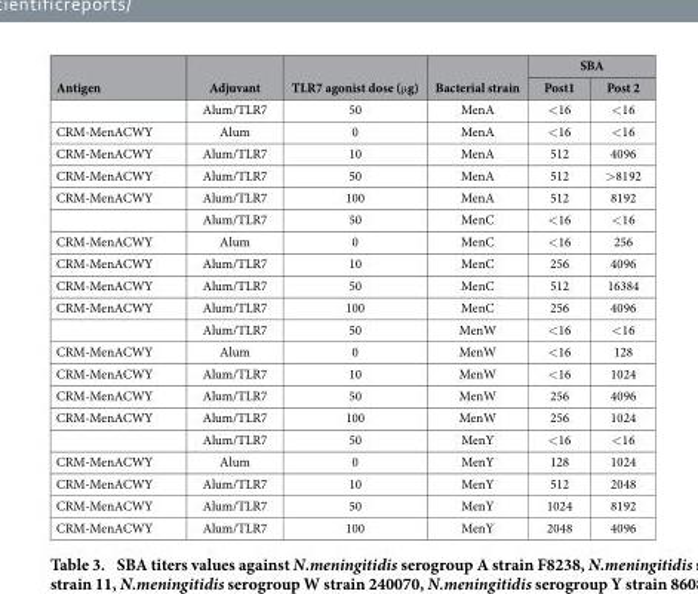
<table><thead><tr><td rowspan="2">Antigen</td><td rowspan="2">Adjuvant</td><td rowspan="2">TLR7 agonist dose (μg)</td><td rowspan="2">Bacterial strain</td><td colspan="2">SBA</td></tr><tr><td>Post1</td><td>Post 2</td></tr></thead><tbody><tr><td></td><td>Alum/TLR7</td><td>50</td><td>MenA</td><td>&lt;16</td><td>&lt;16</td></tr><tr><td>CRM-MenACWY</td><td>Alum</td><td>0</td><td>MenA</td><td>&lt;16</td><td>&lt;16</td></tr><tr><td>CRM-MenACWY</td><td>Alum/TLR7</td><td>10</td><td>MenA</td><td>512</td><td>4096</td></tr><tr><td>CRM-MenACWY</td><td>Alum/TLR7</td><td>50</td><td>MenA</td><td>512</td><td>&gt;8192</td></tr><tr><td rowspan="2">CRM-MenACWY</td><td>Alum/TLR7</td><td>100</td><td>MenA</td><td>512</td><td>8192</td></tr><tr><td>Alum/TLR7</td><td>50</td><td>MenC</td><td>&lt;16</td><td>&lt;16</td></tr><tr><td>CRM-MenACWY</td><td>Alum</td><td>0</td><td>MenC</td><td>&lt;16</td><td>256</td></tr><tr><td>CRM-MenACWY</td><td>Alum/TLR7</td><td>10</td><td>MenC</td><td>256</td><td>4096</td></tr><tr><td>CRM-MenACWY</td><td>Alum/TLR7</td><td>50</td><td>MenC</td><td>512</td><td>16384</td></tr><tr><td rowspan="2">CRM-MenACWY</td><td>Alum/TLR7</td><td>100</td><td>MenC</td><td>256</td><td>4096</td></tr><tr><td>Alum/TLR7</td><td>50</td><td>MenW</td><td>&lt;16</td><td>&lt;16</td></tr><tr><td>CRM-MenACWY</td><td>Alum</td><td>0</td><td>MenW</td><td>&lt;16</td><td>128</td></tr><tr><td>CRM-MenACWY</td><td>Alum/TLR7</td><td>10</td><td>MenW</td><td>&lt;16</td><td>1024</td></tr><tr><td>CRM-MenACWY</td><td>Alum/TLR7</td><td>50</td><td>MenW</td><td>256</td><td>4096</td></tr><tr><td rowspan="2">CRM-MenACWY</td><td>Alum/TLR7</td><td>100</td><td>MenW</td><td>256</td><td>1024</td></tr><tr><td>Alum/TLR7</td><td>50</td><td>MenY</td><td>&lt;16</td><td>&lt;16</td></tr><tr><td>CRM-MenACWY</td><td>Alum</td><td>0</td><td>MenY</td><td>128</td><td>1024</td></tr><tr><td>CRM-MenACWY</td><td>Alum/TLR7</td><td>10</td><td>MenY</td><td>512</td><td>2048</td></tr><tr><td>CRM-MenACWY</td><td>Alum/TLR7</td><td>50</td><td>MenY</td><td>1024</td><td>8192</td></tr><tr><td>CRM-MenACWY</td><td>Alum/TLR7</td><td>100</td><td>MenY</td><td>2048</td><td>4096</td></tr></tbody></table>